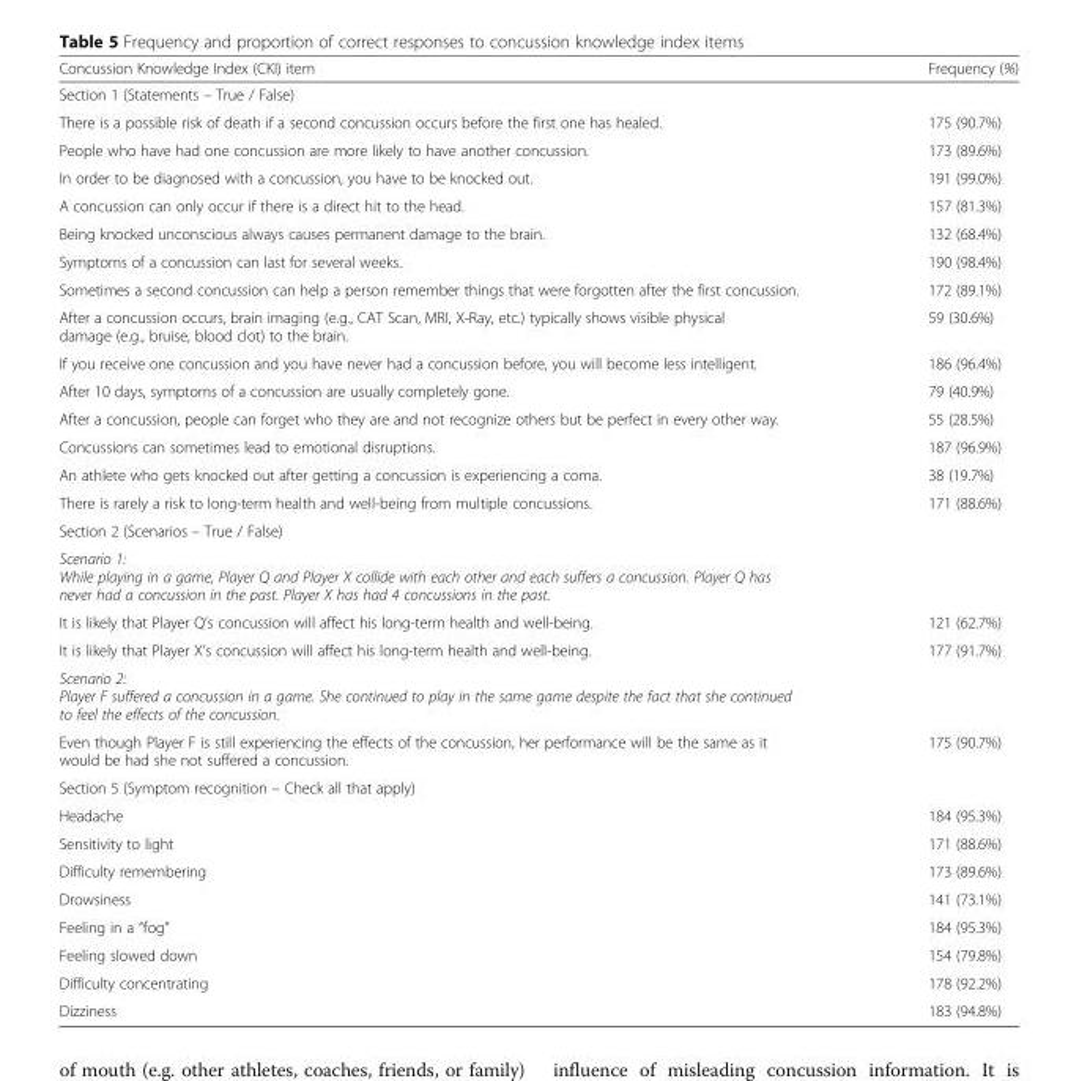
<table><thead><tr><td>Concussion Knowledge Index (CKI) item</td><td>Frequency (%)</td></tr></thead><tbody><tr><td colspan="2">Section 1 (Statements – True / False)</td></tr><tr><td>There is a possible risk of death if a second concussion occurs before the first one has healed.</td><td>175 (90.7%)</td></tr><tr><td>People who have had one concussion are more likely to have another concussion.</td><td>173 (89.6%)</td></tr><tr><td>In order to be diagnosed with a concussion, you have to be knocked out.</td><td>191 (99.0%)</td></tr><tr><td>A concussion can only occur if there is a direct hit to the head.</td><td>157 (81.3%)</td></tr><tr><td>Being knocked unconscious always causes permanent damage to the brain.</td><td>132 (68.4%)</td></tr><tr><td>Symptoms of a concussion can last for several weeks.</td><td>190 (98.4%)</td></tr><tr><td>Sometimes a second concussion can help a person remember things that were forgotten after the first concussion.</td><td>172 (89.1%)</td></tr><tr><td>After a concussion occurs, brain imaging (e.g., CAT Scan, MRI, X-Ray, etc.) typically shows visible physical damage (e.g., bruise, blood clot) to the brain.</td><td>59 (30.6%)</td></tr><tr><td>If you receive one concussion and you have never had a concussion before, you will become less intelligent.</td><td>186 (96.4%)</td></tr><tr><td>After 10 days, symptoms of a concussion are usually completely gone.</td><td>79 (40.9%)</td></tr><tr><td>After a concussion, people can forget who they are and not recognize others but be perfect in every other way.</td><td>55 (28.5%)</td></tr><tr><td>Concussions can sometimes lead to emotional disruptions.</td><td>187 (96.9%)</td></tr><tr><td>An athlete who gets knocked out after getting a concussion is experiencing a coma.</td><td>38 (19.7%)</td></tr><tr><td>There is rarely a risk to long-term health and well-being from multiple concussions.</td><td>171 (88.6%)</td></tr><tr><td colspan="2">Section 2 (Scenarios – True / False)</td></tr><tr><td colspan="2">Scenario 1: While playing in a game, Player Q and Player X collide with each other and each suffers a concussion. Player Q has never had a concussion in the past. Player X has had 4 concussions in the past.</td></tr><tr><td>It is likely that Player Q’s concussion will affect his long-term health and well-being.</td><td>121 (62.7%)</td></tr><tr><td>It is likely that Player X’s concussion will affect his long-term health and well-being.</td><td>177 (91.7%)</td></tr><tr><td colspan="2">Scenario 2: Player F suffered a concussion in a game. She continued to play in the same game despite the fact that she continued to feel the effects of the concussion.</td></tr><tr><td>Even though Player F is still experiencing the effects of the concussion, her performance will be the same as it would be had she not suffered a concussion.</td><td>175 (90.7%)</td></tr><tr><td colspan="2">Section 5 (Symptom recognition – Check all that apply)</td></tr><tr><td>Headache</td><td>184 (95.3%)</td></tr><tr><td>Sensitivity to light</td><td>171 (88.6%)</td></tr><tr><td>Difficulty remembering</td><td>173 (89.6%)</td></tr><tr><td>Drowsiness</td><td>141 (73.1%)</td></tr><tr><td>Feeling in a “fog”</td><td>184 (95.3%)</td></tr><tr><td>Feeling slowed down</td><td>154 (79.8%)</td></tr><tr><td>Difficulty concentrating</td><td>178 (92.2%)</td></tr><tr><td>Dizziness</td><td>183 (94.8%)</td></tr></tbody></table>